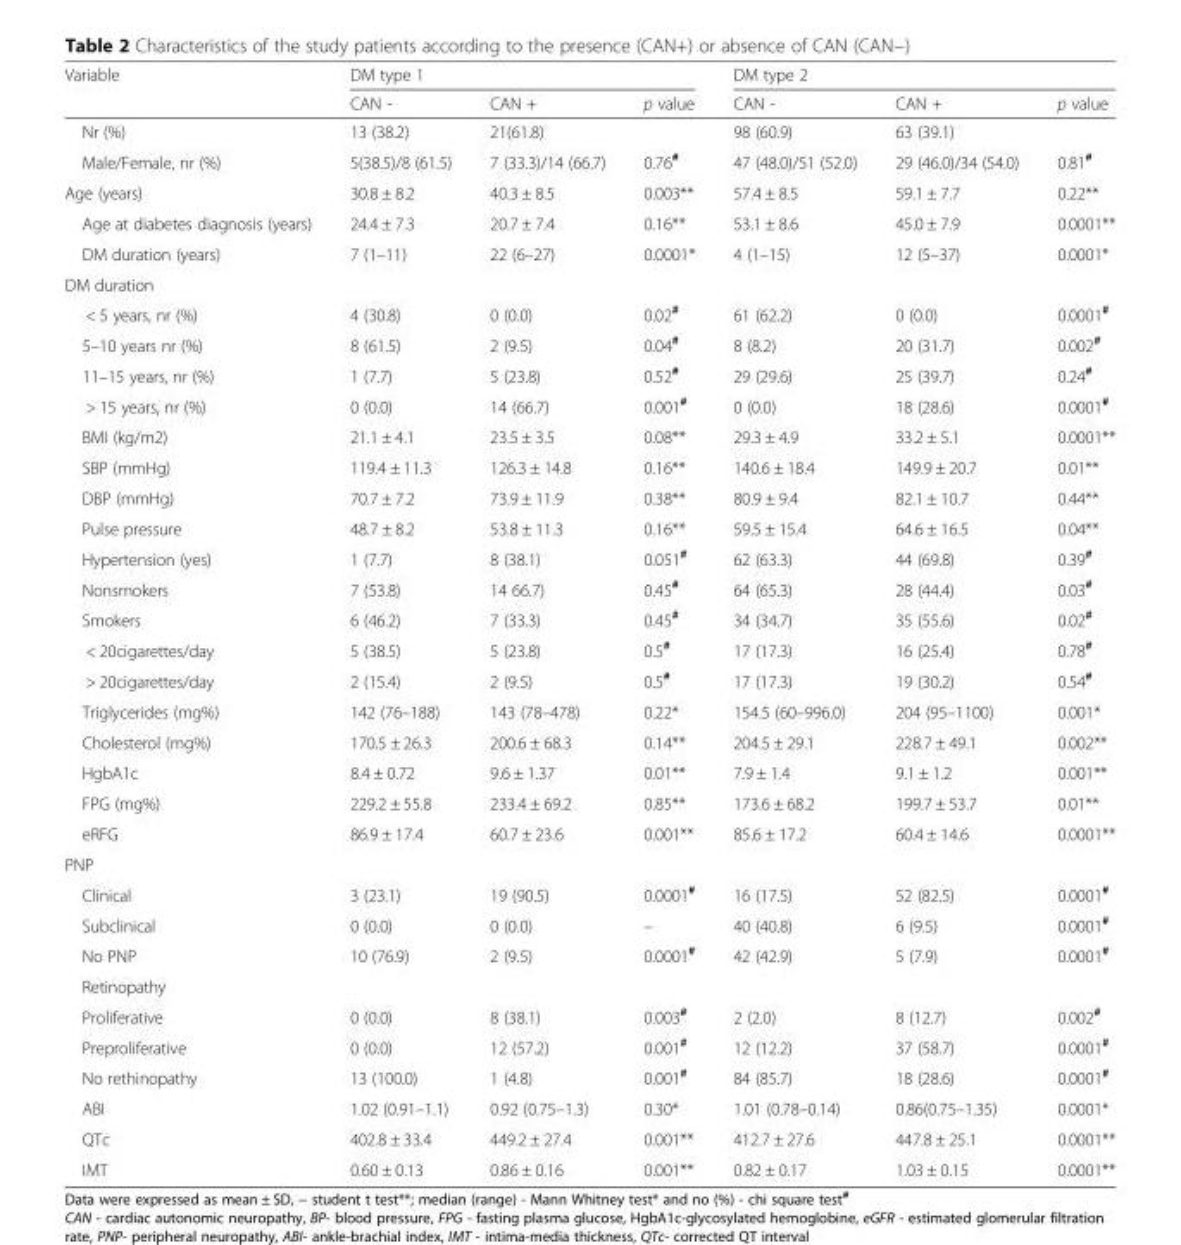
<table><thead><tr><td rowspan="2">Variable</td><td colspan="3">DM type 1</td><td colspan="3">DM type 2</td></tr><tr><td>CAN -</td><td>CAN +</td><td>p value</td><td>CAN -</td><td>CAN +</td><td>p value</td></tr></thead><tbody><tr><td>Nr (%)</td><td>13 (38.2)</td><td>21(61.8)</td><td></td><td>98 (60.9)</td><td>63 (39.1)</td><td></td></tr><tr><td>Male/Female, nr (%)</td><td>5(38.5)/8 (61.5)</td><td>7 (33.3)/14 (66.7)</td><td>0.76<sup>#</sup></td><td>47 (48.0)/51 (52.0)</td><td>29 (46.0)/34 (54.0)</td><td>0.81<sup>#</sup></td></tr><tr><td>Age (years)</td><td>30.8 ± 8.2</td><td>40.3 ± 8.5</td><td>0.003**</td><td>57.4 ± 8.5</td><td>59.1 ± 7.7</td><td>0.22**</td></tr><tr><td>Age at diabetes diagnosis (years)</td><td>24.4 ± 7.3</td><td>20.7 ± 7.4</td><td>0.16**</td><td>53.1 ± 8.6</td><td>45.0 ± 7.9</td><td>0.0001**</td></tr><tr><td>DM duration (years)</td><td>7 (1–11)</td><td>22 (6–27)</td><td>0.0001*</td><td>4 (1–15)</td><td>12 (5–37)</td><td>0.0001*</td></tr><tr><td colspan="7">DM duration</td></tr><tr><td>&lt; 5 years, nr (%)</td><td>4 (30.8)</td><td>0 (0.0)</td><td>0.02<sup>#</sup></td><td>61 (62.2)</td><td>0 (0.0)</td><td>0.0001<sup>#</sup></td></tr><tr><td>5–10 years nr (%)</td><td>8 (61.5)</td><td>2 (9.5)</td><td>0.04<sup>#</sup></td><td>8 (8.2)</td><td>20 (31.7)</td><td>0.002<sup>#</sup></td></tr><tr><td>11–15 years, nr (%)</td><td>1 (7.7)</td><td>5 (23.8)</td><td>0.52<sup>#</sup></td><td>29 (29.6)</td><td>25 (39.7)</td><td>0.24<sup>#</sup></td></tr><tr><td>&gt; 15 years, nr (%)</td><td>0 (0.0)</td><td>14 (66.7)</td><td>0.001<sup>#</sup></td><td>0 (0.0)</td><td>18 (28.6)</td><td>0.0001<sup>#</sup></td></tr><tr><td>BMI (kg/m2)</td><td>21.1 ± 4.1</td><td>23.5 ± 3.5</td><td>0.08**</td><td>29.3 ± 4.9</td><td>33.2 ± 5.1</td><td>0.0001**</td></tr><tr><td>SBP (mmHg)</td><td>119.4 ± 11.3</td><td>126.3 ± 14.8</td><td>0.16**</td><td>140.6 ± 18.4</td><td>149.9 ± 20.7</td><td>0.01**</td></tr><tr><td>DBP (mmHg)</td><td>70.7 ± 7.2</td><td>73.9 ± 11.9</td><td>0.38**</td><td>80.9 ± 9.4</td><td>82.1 ± 10.7</td><td>0.44**</td></tr><tr><td>Pulse pressure</td><td>48.7 ± 8.2</td><td>53.8 ± 11.3</td><td>0.16**</td><td>59.5 ± 15.4</td><td>64.6 ± 16.5</td><td>0.04**</td></tr><tr><td>Hypertension (yes)</td><td>1 (7.7)</td><td>8 (38.1)</td><td>0.051<sup>#</sup></td><td>62 (63.3)</td><td>44 (69.8)</td><td>0.39<sup>#</sup></td></tr><tr><td>Nonsmokers</td><td>7 (53.8)</td><td>14 66.7)</td><td>0.45<sup>#</sup></td><td>64 (65.3)</td><td>28 (44.4)</td><td>0.03<sup>#</sup></td></tr><tr><td>Smokers</td><td>6 (46.2)</td><td>7 (33.3)</td><td>0.45<sup>#</sup></td><td>34 (34.7)</td><td>35 (55.6)</td><td>0.02<sup>#</sup></td></tr><tr><td>&lt; 20cigarettes/day</td><td>5 (38.5)</td><td>5 (23.8)</td><td>0.5<sup>#</sup></td><td>17 (17.3)</td><td>16 (25.4)</td><td>0.78<sup>#</sup></td></tr><tr><td>&gt; 20cigarettes/day</td><td>2 (15.4)</td><td>2 (9.5)</td><td>0.5<sup>#</sup></td><td>17 (17.3)</td><td>19 (30.2)</td><td>0.54<sup>#</sup></td></tr><tr><td>Triglycerides (mg%)</td><td>142 (76–188)</td><td>143 (78–478)</td><td>0.22*</td><td>154.5 (60–996.0)</td><td>204 (95–1100)</td><td>0.001*</td></tr><tr><td>Cholesterol (mg%)</td><td>170.5 ± 26.3</td><td>200.6 ± 68.3</td><td>0.14**</td><td>204.5 ± 29.1</td><td>228.7 ± 49.1</td><td>0.002**</td></tr><tr><td>HgbA1c</td><td>8.4 ± 0.72</td><td>9.6 ± 1.37</td><td>0.01**</td><td>7.9 ± 1.4</td><td>9.1 ± 1.2</td><td>0.001**</td></tr><tr><td>FPG (mg%)</td><td>229.2 ± 55.8</td><td>233.4 ± 69.2</td><td>0.85**</td><td>173.6 ± 68.2</td><td>199.7 ± 53.7</td><td>0.01**</td></tr><tr><td>eRFG</td><td>86.9 ± 17.4</td><td>60.7 ± 23.6</td><td>0.001**</td><td>85.6 ± 17.2</td><td>60.4 ± 14.6</td><td>0.0001**</td></tr><tr><td colspan="7">PNP</td></tr><tr><td>Clinical</td><td>3 (23.1)</td><td>19 (90.5)</td><td>0.0001<sup>#</sup></td><td>16 (17.5)</td><td>52 (82.5)</td><td>0.0001<sup>#</sup></td></tr><tr><td>Subclinical</td><td>0 (0.0)</td><td>0 (0.0)</td><td>–</td><td>40 (40.8)</td><td>6 (9.5)</td><td>0.0001<sup>#</sup></td></tr><tr><td>No PNP</td><td>10 (76.9)</td><td>2 (9.5)</td><td>0.0001<sup>#</sup></td><td>42 (42.9)</td><td>5 (7.9)</td><td>0.0001<sup>#</sup></td></tr><tr><td colspan="7">Retinopathy</td></tr><tr><td>Proliferative</td><td>0 (0.0)</td><td>8 (38.1)</td><td>0.003<sup>#</sup></td><td>2 (2.0)</td><td>8 (12.7)</td><td>0.002<sup>#</sup></td></tr><tr><td>Preproliferative</td><td>0 (0.0)</td><td>12 (57.2)</td><td>0.001<sup>#</sup></td><td>12 (12.2)</td><td>37 (58.7)</td><td>0.0001<sup>#</sup></td></tr><tr><td>No rethinopathy</td><td>13 (100.0)</td><td>1 (4.8)</td><td>0.001<sup>#</sup></td><td>84 (85.7)</td><td>18 (28.6)</td><td>0.0001<sup>#</sup></td></tr><tr><td>ABI</td><td>1.02 (0.91–1.1)</td><td>0.92 (0.75–1.3)</td><td>0.30*</td><td>1.01 (0.78–0.14)</td><td>0.86(0.75–1.35)</td><td>0.0001*</td></tr><tr><td>QTc</td><td>402.8 ± 33.4</td><td>449.2 ± 27.4</td><td>0.001**</td><td>412.7 ± 27.6</td><td>447.8 ± 25.1</td><td>0.0001**</td></tr><tr><td>IMT</td><td>0.60 ± 0.13</td><td>0.86 ± 0.16</td><td>0.001**</td><td>0.82 ± 0.17</td><td>1.03 ± 0.15</td><td>0.0001**</td></tr></tbody></table>